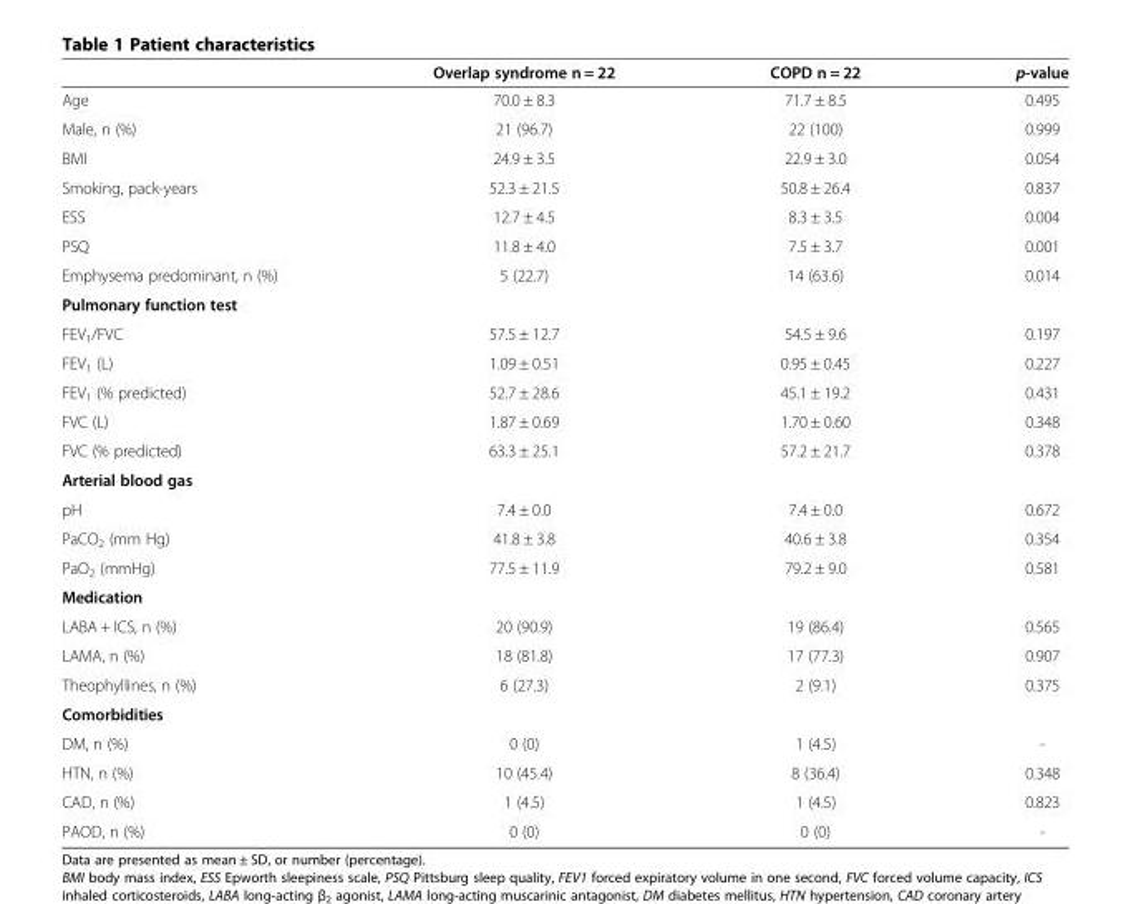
<table><thead><tr><td></td><td>Overlap syndrome n = 22</td><td>COPD n = 22</td><td>p-value</td></tr></thead><tbody><tr><td>Age</td><td>70.0 ± 8.3</td><td>71.7 ± 8.5</td><td>0.495</td></tr><tr><td>Male, n (%)</td><td>21 (96.7)</td><td>22 (100)</td><td>0.999</td></tr><tr><td>BMI</td><td>24.9 ± 3.5</td><td>22.9 ± 3.0</td><td>0.054</td></tr><tr><td>Smoking, pack-years</td><td>52.3 ± 21.5</td><td>50.8 ± 26.4</td><td>0.837</td></tr><tr><td>ESS</td><td>12.7 ± 4.5</td><td>8.3 ± 3.5</td><td>0.004</td></tr><tr><td>PSQ</td><td>11.8 ± 4.0</td><td>7.5 ± 3.7</td><td>0.001</td></tr><tr><td>Emphysema predominant, n (%)</td><td>5 (22.7)</td><td>14 (63.6)</td><td>0.014</td></tr><tr><td colspan="4">Pulmonary function test</td></tr><tr><td>FEV<sub>1</sub>/FVC</td><td>57.5 ± 12.7</td><td>54.5 ± 9.6</td><td>0.197</td></tr><tr><td>FEV<sub>1</sub> (L)</td><td>1.09 ± 0.51</td><td>0.95 ± 0.45</td><td>0.227</td></tr><tr><td>FEV<sub>1</sub> (% predicted)</td><td>52.7 ± 28.6</td><td>45.1 ± 19.2</td><td>0.431</td></tr><tr><td>FVC (L)</td><td>1.87 ± 0.69</td><td>1.70 ± 0.60</td><td>0.348</td></tr><tr><td>FVC (% predicted)</td><td>63.3 ± 25.1</td><td>57.2 ± 21.7</td><td>0.378</td></tr><tr><td colspan="4">Arterial blood gas</td></tr><tr><td>pH</td><td>7.4 ± 0.0</td><td>7.4 ± 0.0</td><td>0.672</td></tr><tr><td>PaCO<sub>2</sub> (mm Hg)</td><td>41.8 ± 3.8</td><td>40.6 ± 3.8</td><td>0.354</td></tr><tr><td>PaO<sub>2</sub> (mmHg)</td><td>77.5 ± 11.9</td><td>79.2 ± 9.0</td><td>0.581</td></tr><tr><td colspan="4">Medication</td></tr><tr><td>LABA + ICS, n (%)</td><td>20 (90.9)</td><td>19 (86.4)</td><td>0.565</td></tr><tr><td>LAMA, n (%)</td><td>18 (81.8)</td><td>17 (77.3)</td><td>0.907</td></tr><tr><td>Theophyllines, n (%)</td><td>6 (27.3)</td><td>2 (9.1)</td><td>0.375</td></tr><tr><td colspan="4">Comorbidities</td></tr><tr><td>DM, n (%)</td><td>0 (0)</td><td>1 (4.5)</td><td>-</td></tr><tr><td>HTN, n (%)</td><td>10 (45.4)</td><td>8 (36.4)</td><td>0.348</td></tr><tr><td>CAD, n (%)</td><td>1 (4.5)</td><td>1 (4.5)</td><td>0.823</td></tr><tr><td>PAOD, n (%)</td><td>0 (0)</td><td>0 (0)</td><td>-</td></tr></tbody></table>